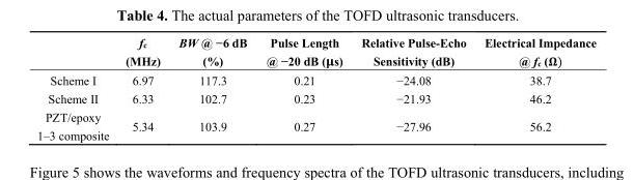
<table><thead><tr><td></td><td>f<sub>c</sub> (MHz)</td><td>BW @ −6 dB (%)</td><td>Pulse Length @ −20 dB (μs)</td><td>Relative Pulse-Echo Sensitivity (dB)</td><td>Electrical Impedance @ f<sub>c</sub> (Ω)</td></tr></thead><tbody><tr><td>Scheme I</td><td>6.97</td><td>117.3</td><td>0.21</td><td>−24.08</td><td>38.7</td></tr><tr><td>Scheme II</td><td>6.33</td><td>102.7</td><td>0.23</td><td>−21.93</td><td>46.2</td></tr><tr><td>PZT/epoxy 1–3 composite</td><td>5.34</td><td>103.9</td><td>0.27</td><td>−27.96</td><td>56.2</td></tr></tbody></table>